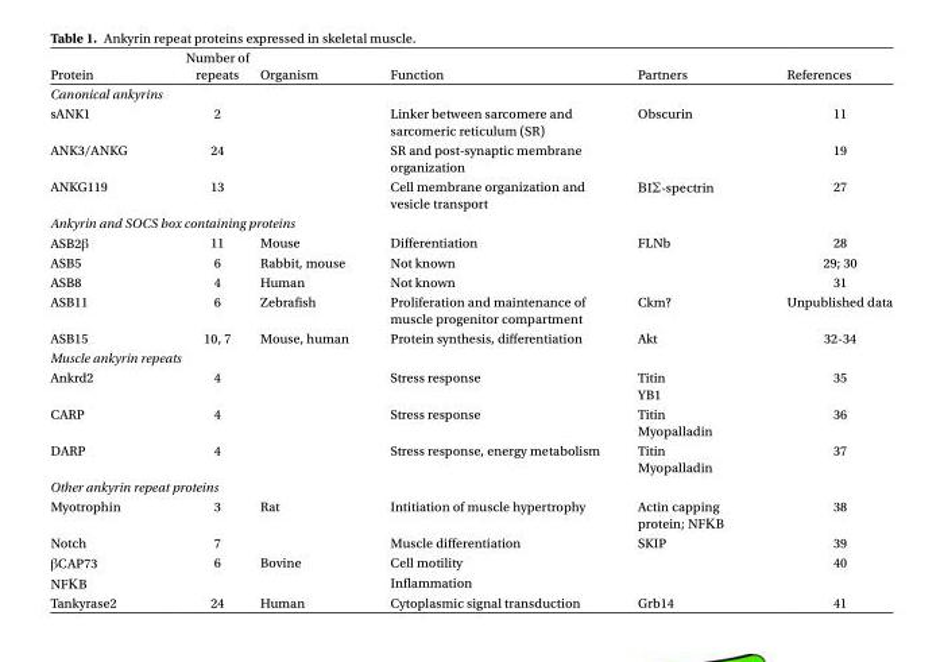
<table><thead><tr><td>Protein</td><td>Number of repeats</td><td>Organism</td><td>Function</td><td>Partners</td><td>References</td></tr></thead><tbody><tr><td colspan="6">Canonical ankyrins</td></tr><tr><td>sANK1</td><td>2</td><td></td><td>Linker between sarcomere and sarcomeric reticulum (SR)</td><td>Obscurin</td><td>11</td></tr><tr><td>ANK3/ANKG</td><td>24</td><td></td><td>SR and post-synaptic membrane organization</td><td></td><td>19</td></tr><tr><td>ANKG119</td><td>13</td><td></td><td>Cell membrane organization and vesicle transport</td><td>ΒIΣ-spectrin</td><td>27</td></tr><tr><td colspan="6">Ankyrin and SOCS box containing proteins</td></tr><tr><td>ASB2β</td><td>11</td><td>Mouse</td><td>Differentiation</td><td>FLNb</td><td>28</td></tr><tr><td>ASB5</td><td>6</td><td>Rabbit, mouse</td><td>Not known</td><td></td><td>29; 30</td></tr><tr><td>ASB8</td><td>4</td><td>Human</td><td>Not known</td><td></td><td>31</td></tr><tr><td>ASB11</td><td>6</td><td>Zebrafish</td><td>Proliferation and maintenance of muscle progenitor compartment</td><td>Ckm?</td><td>Unpublished data</td></tr><tr><td>ASB15</td><td>10, 7</td><td>Mouse, human</td><td>Protein synthesis, differentiation</td><td>Akt</td><td>32-34</td></tr><tr><td colspan="6">Muscle ankyrin repeats</td></tr><tr><td>Ankrd2</td><td>4</td><td></td><td>Stress response</td><td>Titin YB1</td><td>35</td></tr><tr><td>CARP</td><td>4</td><td></td><td>Stress response</td><td>Titin Myopalladin</td><td>36</td></tr><tr><td>DARP</td><td>4</td><td></td><td>Stress response, energy metabolism</td><td>Titin Myopalladin</td><td>37</td></tr><tr><td colspan="6">Other ankyrin repeat proteins</td></tr><tr><td>Myotrophin</td><td>3</td><td>Rat</td><td>Intitiation of muscle hypertrophy</td><td>Actin capping protein; NFΚB</td><td>38</td></tr><tr><td>Notch</td><td>7</td><td></td><td>Muscle differentiation</td><td>SKIP</td><td>39</td></tr><tr><td>βCAP73</td><td>6</td><td>Bovine</td><td>Cell motility</td><td></td><td>40</td></tr><tr><td>NFΚB</td><td></td><td></td><td>Inflammation</td><td></td><td></td></tr><tr><td>Tankyrase2</td><td>24</td><td>Human</td><td>Cytoplasmic signal transduction</td><td>Grb14</td><td>41</td></tr></tbody></table>